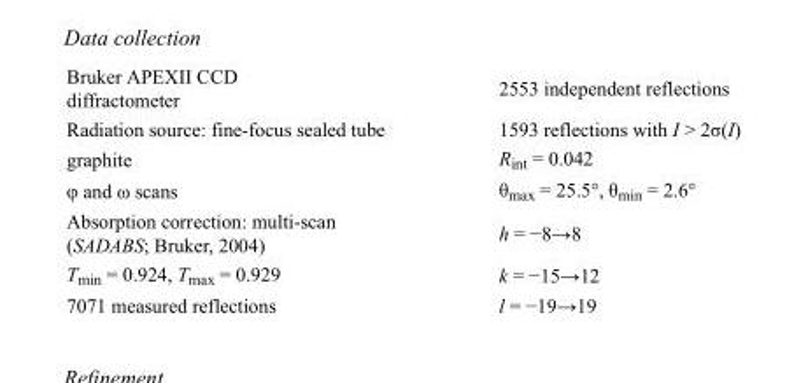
<table><tbody><tr><td>Bruker APEXII CCD diffractometer</td><td>2553 independent reflections</td></tr><tr><td>Radiation source: fine-focus sealed tube</td><td>1593 reflections with I &gt; 2σ(I)</td></tr><tr><td>graphite</td><td>R<sub>int</sub> = 0.042</td></tr><tr><td>φ and ω scans</td><td>θ<sub>max</sub> = 25.5°, θ<sub>min</sub> = 2.6°</td></tr><tr><td>Absorption correction: multi-scan (SADABS; Bruker, 2004)</td><td>h = −8→8</td></tr><tr><td>T<sub>min</sub> = 0.924, T<sub>max</sub> = 0.929</td><td>k = −15→12</td></tr><tr><td>7071 measured reflections</td><td>l = −19→19</td></tr></tbody></table>